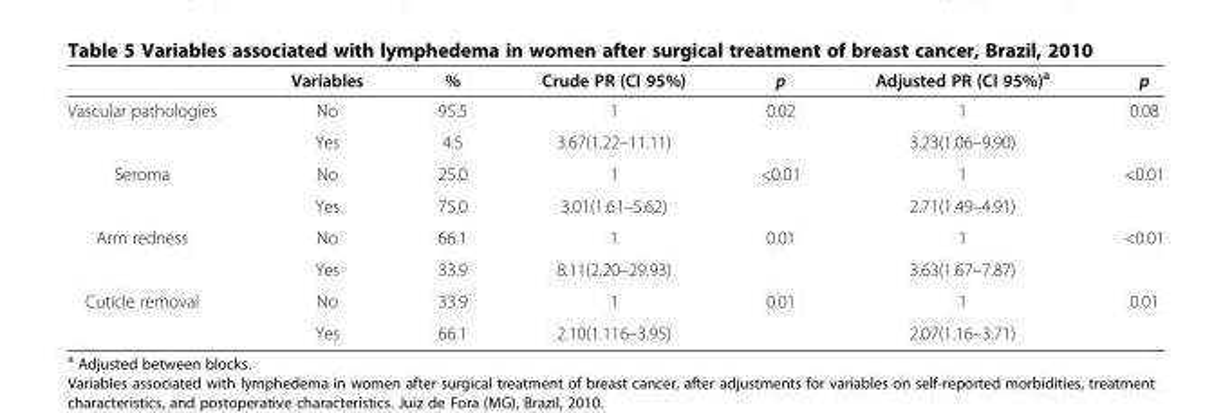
<table><thead><tr><td></td><td>Variables</td><td>%</td><td>Crude PR (CI 95%)</td><td>p</td><td>Adjusted PR (CI 95%)<sup>a</sup></td><td>p</td></tr></thead><tbody><tr><td rowspan="2">Vascular pathologies</td><td>No</td><td>95.5</td><td>1</td><td>0.02</td><td>1</td><td>0.08</td></tr><tr><td>Yes</td><td>4.5</td><td>3.67(1.22–11.11)</td><td></td><td>3.23(1.06–9.90)</td><td></td></tr><tr><td rowspan="2">Seroma</td><td>No</td><td>25.0</td><td>1</td><td>&lt;0.01</td><td>1</td><td>&lt;0.01</td></tr><tr><td>Yes</td><td>75.0</td><td>3.01(1.61–5.62)</td><td></td><td>2.71(1.49–4.91)</td><td></td></tr><tr><td rowspan="2">Arm redness</td><td>No</td><td>66.1</td><td>1</td><td>0.01</td><td>1</td><td>&lt;0.01</td></tr><tr><td>Yes</td><td>33.9</td><td>8.11(2.20–29.93)</td><td></td><td>3.63(1.67–7.87)</td><td></td></tr><tr><td rowspan="2">Cuticle removal</td><td>No</td><td>33.9</td><td>1</td><td>0.01</td><td>1</td><td>0.01</td></tr><tr><td>Yes</td><td>66.1</td><td>2.10(1.116–3.95)</td><td></td><td>2.07(1.16–3.71)</td><td></td></tr></tbody></table>